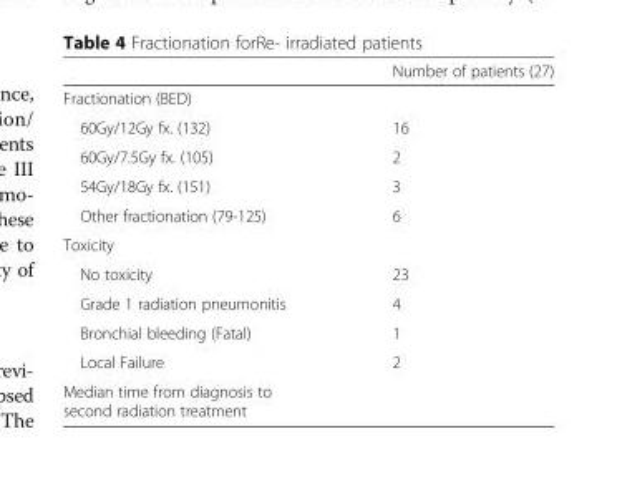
<table><thead><tr><td></td><td>Number of patients (27)</td></tr></thead><tbody><tr><td colspan="2">Fractionation (BED)</td></tr><tr><td>60Gy/12Gy fx. (132)</td><td>16</td></tr><tr><td>60Gy/7.5Gy fx. (105)</td><td>2</td></tr><tr><td>54Gy/18Gy fx. (151)</td><td>3</td></tr><tr><td>Other fractionation (79-125)</td><td>6</td></tr><tr><td colspan="2">Toxicity</td></tr><tr><td>No toxicity</td><td>23</td></tr><tr><td>Grade 1 radiation pneumonitis</td><td>4</td></tr><tr><td>Bronchial bleeding (Fatal)</td><td>1</td></tr><tr><td>Local Failure</td><td>2</td></tr><tr><td>Median time from diagnosis to second radiation treatment</td><td></td></tr></tbody></table>